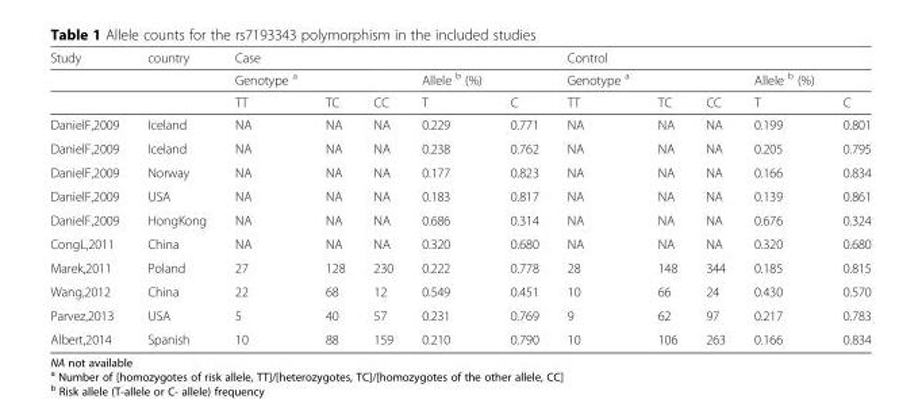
<table><thead><tr><td>Study</td><td>country</td><td>Case</td><td></td><td></td><td></td><td></td><td>Control</td><td></td><td></td><td></td><td></td></tr></thead><tbody><tr><td></td><td></td><td>Genotype <sup>a</sup></td><td></td><td></td><td>Allele <sup>b</sup> (%)</td><td></td><td>Genotype <sup>a</sup></td><td></td><td></td><td>Allele <sup>b</sup> (%)</td><td></td></tr><tr><td></td><td></td><td>TT</td><td>TC</td><td>CC</td><td>T</td><td>C</td><td>TT</td><td>TC</td><td>CC</td><td>T</td><td>C</td></tr><tr><td>DanielF,2009</td><td>Iceland</td><td>NA</td><td>NA</td><td>NA</td><td>0.229</td><td>0.771</td><td>NA</td><td>NA</td><td>NA</td><td>0.199</td><td>0.801</td></tr><tr><td>DanielF,2009</td><td>Iceland</td><td>NA</td><td>NA</td><td>NA</td><td>0.238</td><td>0.762</td><td>NA</td><td>NA</td><td>NA</td><td>0.205</td><td>0.795</td></tr><tr><td>DanielF,2009</td><td>Norway</td><td>NA</td><td>NA</td><td>NA</td><td>0.177</td><td>0.823</td><td>NA</td><td>NA</td><td>NA</td><td>0.166</td><td>0.834</td></tr><tr><td>DanielF,2009</td><td>USA</td><td>NA</td><td>NA</td><td>NA</td><td>0.183</td><td>0.817</td><td>NA</td><td>NA</td><td>NA</td><td>0.139</td><td>0.861</td></tr><tr><td>DanielF,2009</td><td>HongKong</td><td>NA</td><td>NA</td><td>NA</td><td>0.686</td><td>0.314</td><td>NA</td><td>NA</td><td>NA</td><td>0.676</td><td>0.324</td></tr><tr><td>CongL,2011</td><td>China</td><td>NA</td><td>NA</td><td>NA</td><td>0.320</td><td>0.680</td><td>NA</td><td>NA</td><td>NA</td><td>0.320</td><td>0.680</td></tr><tr><td>Marek,2011</td><td>Poland</td><td>27</td><td>128</td><td>230</td><td>0.222</td><td>0.778</td><td>28</td><td>148</td><td>344</td><td>0.185</td><td>0.815</td></tr><tr><td>Wang,2012</td><td>China</td><td>22</td><td>68</td><td>12</td><td>0.549</td><td>0.451</td><td>10</td><td>66</td><td>24</td><td>0.430</td><td>0.570</td></tr><tr><td>Parvez,2013</td><td>USA</td><td>5</td><td>40</td><td>57</td><td>0.231</td><td>0.769</td><td>9</td><td>62</td><td>97</td><td>0.217</td><td>0.783</td></tr><tr><td>Albert,2014</td><td>Spanish</td><td>10</td><td>88</td><td>159</td><td>0.210</td><td>0.790</td><td>10</td><td>106</td><td>263</td><td>0.166</td><td>0.834</td></tr></tbody></table>